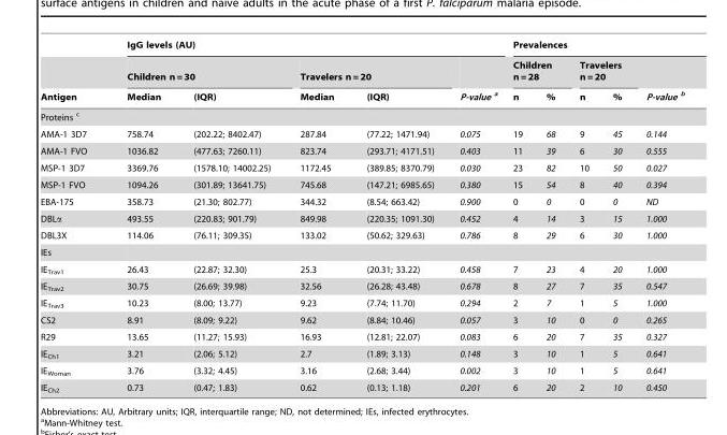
<table><thead><tr><td rowspan="3">Antigen</td><td colspan="5">IgG levels (AU)</td><td colspan="5">Prevalences</td></tr><tr><td colspan="2">Children n = 30</td><td colspan="2">Travelers n = 20</td><td rowspan="2">P-value a</td><td colspan="2">Children n = 28</td><td colspan="2">Travelers n = 20</td><td rowspan="2">P-value b</td></tr><tr><td>Median</td><td>(IQR)</td><td>Median</td><td>(IQR)</td><td>n</td><td>%</td><td>n</td><td>%</td></tr></thead><tbody><tr><td colspan="11">Proteins c</td></tr><tr><td>AMA-1 3D7</td><td>758.74</td><td>(202.22; 8402.47)</td><td>287.84</td><td>(77.22; 1471.94)</td><td>0.075</td><td>19</td><td>68</td><td>9</td><td>45</td><td>0.144</td></tr><tr><td>AMA-1 FVO</td><td>1036.82</td><td>(477.63; 7260.11)</td><td>823.74</td><td>(293.71; 4171.51)</td><td>0.403</td><td>11</td><td>39</td><td>6</td><td>30</td><td>0.555</td></tr><tr><td>MSP-1 3D7</td><td>3369.76</td><td>(1578.10; 14002.25)</td><td>1172.45</td><td>(389.85; 8370.79)</td><td>0.030</td><td>23</td><td>82</td><td>10</td><td>50</td><td>0.027</td></tr><tr><td>MSP-1 FVO</td><td>1094.26</td><td>(301.89; 13641.75)</td><td>745.68</td><td>(147.21; 6985.65)</td><td>0.380</td><td>15</td><td>54</td><td>8</td><td>40</td><td>0.394</td></tr><tr><td>EBA-175</td><td>358.73</td><td>(21.30; 802.77)</td><td>344.32</td><td>(8.54; 663.42)</td><td>0.900</td><td>0</td><td>0</td><td>0</td><td>0</td><td>ND</td></tr><tr><td>DBLα</td><td>493.55</td><td>(220.83; 901.79)</td><td>849.98</td><td>(220.35; 1091.30)</td><td>0.452</td><td>4</td><td>14</td><td>3</td><td>15</td><td>1.000</td></tr><tr><td>DBL3X</td><td>114.06</td><td>(76.11; 309.35)</td><td>133.02</td><td>(50.62; 329.63)</td><td>0.786</td><td>8</td><td>29</td><td>6</td><td>30</td><td>1.000</td></tr><tr><td colspan="11">IEs</td></tr><tr><td>IE<sub>Trav1</sub></td><td>26.43</td><td>(22.87; 32.30)</td><td>25.3</td><td>(20.31; 33.22)</td><td>0.458</td><td>7</td><td>23</td><td>4</td><td>20</td><td>1.000</td></tr><tr><td>IE<sub>Trav2</sub></td><td>30.75</td><td>(26.69; 39.98)</td><td>32.56</td><td>(26.28; 43.48)</td><td>0.678</td><td>8</td><td>27</td><td>7</td><td>35</td><td>0.547</td></tr><tr><td>IE<sub>Trav3</sub></td><td>10.23</td><td>(8.00; 13.77)</td><td>9.23</td><td>(7.74; 11.70)</td><td>0.294</td><td>2</td><td>7</td><td>1</td><td>5</td><td>1.000</td></tr><tr><td>CS2</td><td>8.91</td><td>(8.09; 9.22)</td><td>9.62</td><td>(8.84; 10.46)</td><td>0.057</td><td>3</td><td>10</td><td>0</td><td>0</td><td>0.265</td></tr><tr><td>R29</td><td>13.65</td><td>(11.27; 15.93)</td><td>16.93</td><td>(12.81; 22.07)</td><td>0.083</td><td>6</td><td>20</td><td>7</td><td>35</td><td>0.327</td></tr><tr><td>IE<sub>Ch1</sub></td><td>3.21</td><td>(2.06; 5.12)</td><td>2.7</td><td>(1.89; 3.13)</td><td>0.148</td><td>3</td><td>10</td><td>1</td><td>5</td><td>0.641</td></tr><tr><td>IE<sub>Woman</sub></td><td>3.76</td><td>(3.32; 4.45)</td><td>3.16</td><td>(2.68; 3.44)</td><td>0.002</td><td>3</td><td>10</td><td>1</td><td>5</td><td>0.641</td></tr><tr><td>IE<sub>Ch2</sub></td><td>0.73</td><td>(0.47; 1.83)</td><td>0.62</td><td>(0.13; 1.18)</td><td>0.201</td><td>6</td><td>20</td><td>2</td><td>10</td><td>0.450</td></tr></tbody></table>